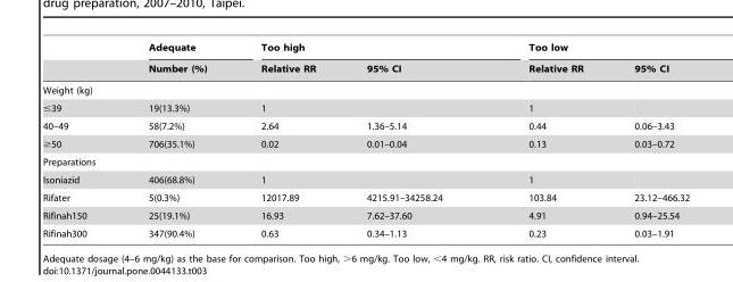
<table><thead><tr><td rowspan="2"></td><td rowspan="2">Adequate Number (%)</td><td colspan="2">Too high</td><td colspan="2">Too low</td></tr><tr><td>Relative RR</td><td>95% CI</td><td>Relative RR</td><td>95% CI</td></tr></thead><tbody><tr><td colspan="6">Weight (kg)</td></tr><tr><td>≤39</td><td>19(13.3%)</td><td>1</td><td></td><td>1</td><td></td></tr><tr><td>40–49</td><td>58(7.2%)</td><td>2.64</td><td>1.36–5.14</td><td>0.44</td><td>0.06–3.43</td></tr><tr><td>≥50</td><td>706(35.1%)</td><td>0.02</td><td>0.01–0.04</td><td>0.13</td><td>0.03–0.72</td></tr><tr><td colspan="6">Preparations</td></tr><tr><td>Isoniazid</td><td>406(68.8%)</td><td>1</td><td></td><td>1</td><td></td></tr><tr><td>Rifater</td><td>5(0.3%)</td><td>12017.89</td><td>4215.91–34258.24</td><td>103.84</td><td>23.12–466.32</td></tr><tr><td>Rifinah150</td><td>25(19.1%)</td><td>16.93</td><td>7.62–37.60</td><td>4.91</td><td>0.94–25.54</td></tr><tr><td>Rifinah300</td><td>347(90.4%)</td><td>0.63</td><td>0.34–1.13</td><td>0.23</td><td>0.03–1.91</td></tr></tbody></table>